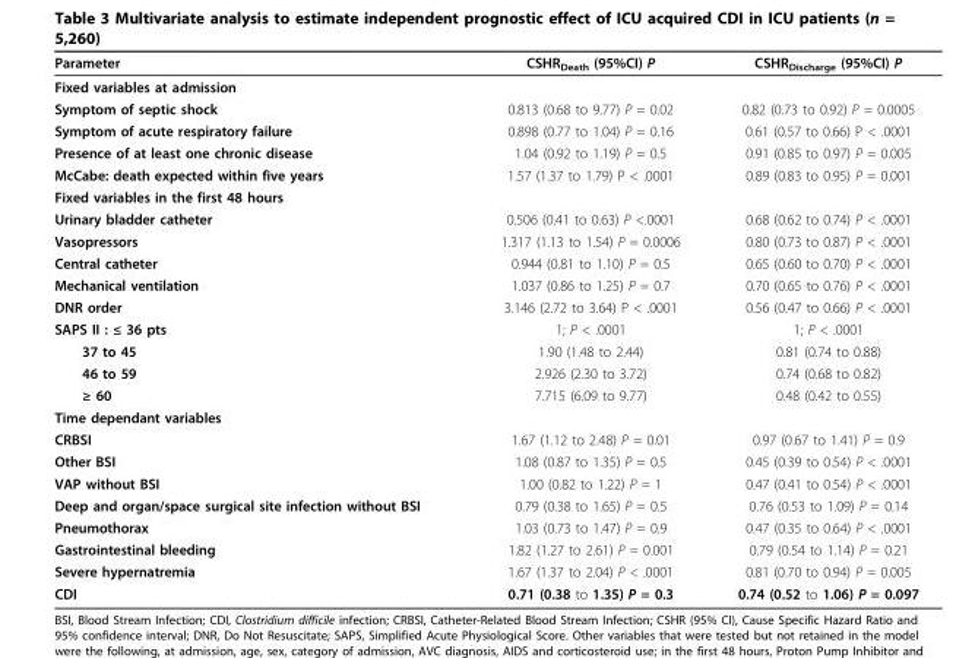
<table><thead><tr><td>Parameter</td><td>CSHR<sub>Death</sub> (95%CI) P</td><td>CSHR<sub>Discharge</sub> (95%CI) P</td></tr></thead><tbody><tr><td colspan="3">Fixed variables at admission</td></tr><tr><td>Symptom of septic shock</td><td>0.813 (0.68 to 9.77) P = 0.02</td><td>0.82 (0.73 to 0.92) P = 0.0005</td></tr><tr><td>Symptom of acute respiratory failure</td><td>0.898 (0.77 to 1.04) P = 0.16</td><td>0.61 (0.57 to 0.66) P &lt; .0001</td></tr><tr><td>Presence of at least one chronic disease</td><td>1.04 (0.92 to 1.19) P = 0.5</td><td>0.91 (0.85 to 0.97) P = 0.005</td></tr><tr><td>McCabe: death expected within five years</td><td>1.57 (1.37 to 1.79) P &lt; .0001</td><td>0.89 (0.83 to 0.95) P = 0.001</td></tr><tr><td colspan="3">Fixed variables in the first 48 hours</td></tr><tr><td>Urinary bladder catheter</td><td>0.506 (0.41 to 0.63) P &lt;.0001</td><td>0.68 (0.62 to 0.74) P &lt; .0001</td></tr><tr><td>Vasopressors</td><td>1.317 (1.13 to 1.54) P = 0.0006</td><td>0.80 (0.73 to 0.87) P &lt; .0001</td></tr><tr><td>Central catheter</td><td>0.944 (0.81 to 1.10) P = 0.5</td><td>0.65 (0.60 to 0.70) P &lt; .0001</td></tr><tr><td>Mechanical ventilation</td><td>1.037 (0.86 to 1.25) P = 0.7</td><td>0.70 (0.65 to 0.76) P &lt; .0001</td></tr><tr><td>DNR order</td><td>3.146 (2.72 to 3.64) P &lt; .0001</td><td>0.56 (0.47 to 0.66) P &lt; .0001</td></tr><tr><td>SAPS II : ≤ 36 pts</td><td>1; P &lt; .0001</td><td>1; P &lt; .0001</td></tr><tr><td>37 to 45</td><td>1.90 (1.48 to 2.44)</td><td>0.81 (0.74 to 0.88)</td></tr><tr><td>46 to 59</td><td>2.926 (2.30 to 3.72)</td><td>0.74 (0.68 to 0.82)</td></tr><tr><td>≥ 60</td><td>7.715 (6.09 to 9.77)</td><td>0.48 (0.42 to 0.55)</td></tr><tr><td colspan="3">Time dependant variables</td></tr><tr><td>CRBSI</td><td>1.67 (1.12 to 2.48) P = 0.01</td><td>0.97 (0.67 to 1.41) P = 0.9</td></tr><tr><td>Other BSI</td><td>1.08 (0.87 to 1.35) P = 0.5</td><td>0.45 (0.39 to 0.54) P &lt; .0001</td></tr><tr><td>VAP without BSI</td><td>1.00 (0.82 to 1.22) P = 1</td><td>0.47 (0.41 to 0.54) P &lt; .0001</td></tr><tr><td>Deep and organ/space surgical site infection without BSI</td><td>0.79 (0.38 to 1.65) P = 0.5</td><td>0.76 (0.53 to 1.09) P = 0.14</td></tr><tr><td>Pneumothorax</td><td>1.03 (0.73 to 1.47) P = 0.9</td><td>0.47 (0.35 to 0.64) P &lt; .0001</td></tr><tr><td>Gastrointestinal bleeding</td><td>1.82 (1.27 to 2.61) P = 0.001</td><td>0.79 (0.54 to 1.14) P = 0.21</td></tr><tr><td>Severe hypernatremia</td><td>1.67 (1.37 to 2.04) P &lt; .0001</td><td>0.81 (0.70 to 0.94) P = 0.005</td></tr><tr><td>CDI</td><td>0.71 (0.38 to 1.35) P = 0.3</td><td>0.74 (0.52 to 1.06) P = 0.097</td></tr></tbody></table>